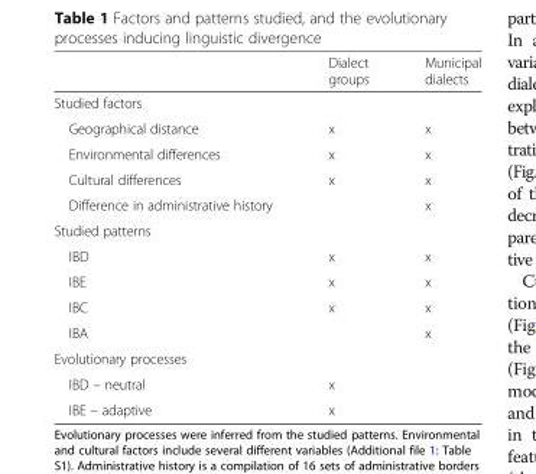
<table><thead><tr><td></td><td>Dialect groups</td><td>Municipal dialects</td></tr></thead><tbody><tr><td colspan="3">Studied factors</td></tr><tr><td>Geographical distance</td><td>x</td><td>x</td></tr><tr><td>Environmental differences</td><td>x</td><td>x</td></tr><tr><td>Cultural differences</td><td>x</td><td>x</td></tr><tr><td>Difference in administrative history</td><td></td><td>x</td></tr><tr><td colspan="3">Studied patterns</td></tr><tr><td>IBD</td><td>x</td><td>x</td></tr><tr><td>IBE</td><td>x</td><td>x</td></tr><tr><td>IBC</td><td>x</td><td>x</td></tr><tr><td>IBA</td><td></td><td>x</td></tr><tr><td colspan="3">Evolutionary processes</td></tr><tr><td>IBD – neutral</td><td>x</td><td></td></tr><tr><td>IBE – adaptive</td><td>x</td><td></td></tr></tbody></table>